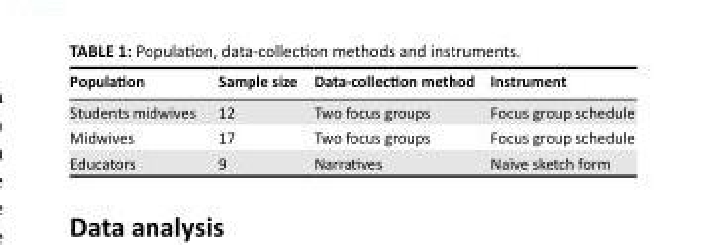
<table><thead><tr><td>Population</td><td>Sample size</td><td>Data-collection method</td><td>Instrument</td></tr></thead><tbody><tr><td>Students midwives</td><td>12</td><td>Two focus groups</td><td>Focus group schedule</td></tr><tr><td>Midwives</td><td>17</td><td>Two focus groups</td><td>Focus group schedule</td></tr><tr><td>Educators</td><td>9</td><td>Narratives</td><td>Naïve sketch form</td></tr></tbody></table>